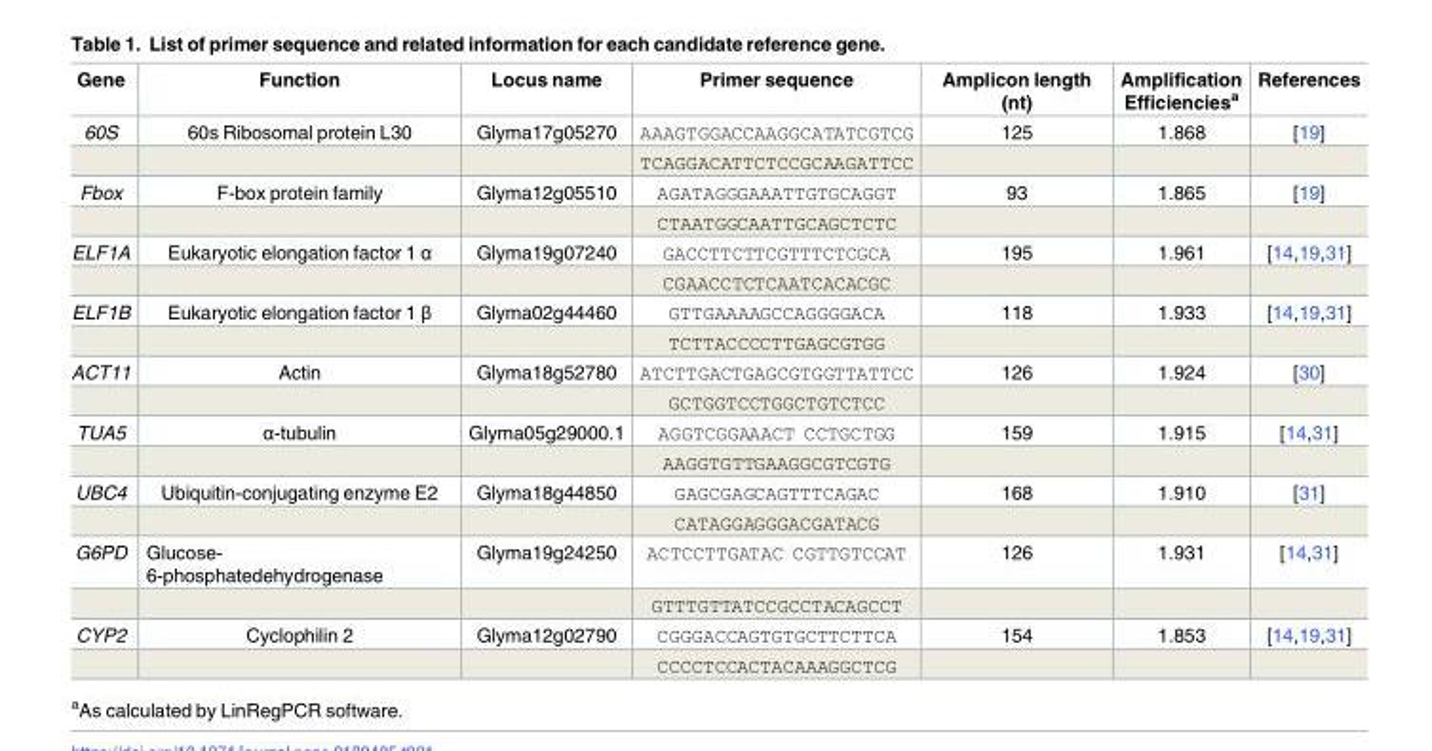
<table><thead><tr><td>Gene</td><td>Function</td><td>Locus name</td><td>Primer sequence</td><td>Amplicon length (nt)</td><td>Amplification Efficiencies<sup>a</sup></td><td>References</td></tr></thead><tbody><tr><td rowspan="2">60S</td><td>60s Ribosomal protein L30</td><td>Glyma17g05270</td><td>AAAGTGGACCAAGGCATATCGTCG</td><td>125</td><td>1.868</td><td>[19]</td></tr><tr><td></td><td></td><td>TCAGGACATTCTCCGCAAGATTCC</td><td></td><td></td><td></td></tr><tr><td rowspan="2">Fbox</td><td>F-box protein family</td><td>Glyma12g05510</td><td>AGATAGGGAAATTGTGCAGGT</td><td>93</td><td>1.865</td><td>[19]</td></tr><tr><td></td><td></td><td>CTAATGGCAATTGCAGCTCTC</td><td></td><td></td><td></td></tr><tr><td rowspan="2">ELF1A</td><td>Eukaryotic elongation factor 1 α</td><td>Glyma19g07240</td><td>GACCTTCTTCGTTTCTCGCA</td><td>195</td><td>1.961</td><td>[14,19,31]</td></tr><tr><td></td><td></td><td>CGAACCTCTCAATCACACGC</td><td></td><td></td><td></td></tr><tr><td rowspan="2">ELF1B</td><td>Eukaryotic elongation factor 1 β</td><td>Glyma02g44460</td><td>GTTGAAAAGCCAGGGGACA</td><td>118</td><td>1.933</td><td>[14,19,31]</td></tr><tr><td></td><td></td><td>TCTTACCCCTTGAGCGTGG</td><td></td><td></td><td></td></tr><tr><td rowspan="2">ACT11</td><td>Actin</td><td>Glyma18g52780</td><td>ATCTTGACTGAGCGTGGTTATTCC</td><td>126</td><td>1.924</td><td>[30]</td></tr><tr><td></td><td></td><td>GCTGGTCCTGGCTGTCTCC</td><td></td><td></td><td></td></tr><tr><td rowspan="2">TUA5</td><td>α-tubulin</td><td>Glyma05g29000.1</td><td>AGGTCGGAAACT CCTGCTGG</td><td>159</td><td>1.915</td><td>[14,31]</td></tr><tr><td></td><td></td><td>AAGGTGTTGAAGGCGTCGTG</td><td></td><td></td><td></td></tr><tr><td rowspan="2">UBC4</td><td>Ubiquitin-conjugating enzyme E2</td><td>Glyma18g44850</td><td>GAGCGAGCAGTTTCAGAC</td><td>168</td><td>1.910</td><td>[31]</td></tr><tr><td></td><td></td><td>CATAGGAGGGACGATACG</td><td></td><td></td><td></td></tr><tr><td rowspan="2">G6PD</td><td>Glucose- 6-phosphatedehydrogenase</td><td>Glyma19g24250</td><td>ACTCCTTGATAC CGTTGTCCAT</td><td>126</td><td>1.931</td><td>[14,31]</td></tr><tr><td></td><td></td><td>GTTTGTTATCCGCCTACAGCCT</td><td></td><td></td><td></td></tr><tr><td rowspan="2">CYP2</td><td>Cyclophilin 2</td><td>Glyma12g02790</td><td>CGGGACCAGTGTGCTTCTTCA</td><td>154</td><td>1.853</td><td>[14,19,31]</td></tr><tr><td></td><td></td><td>CCCCTCCACTACAAAGGCTCG</td><td></td><td></td><td></td></tr></tbody></table>